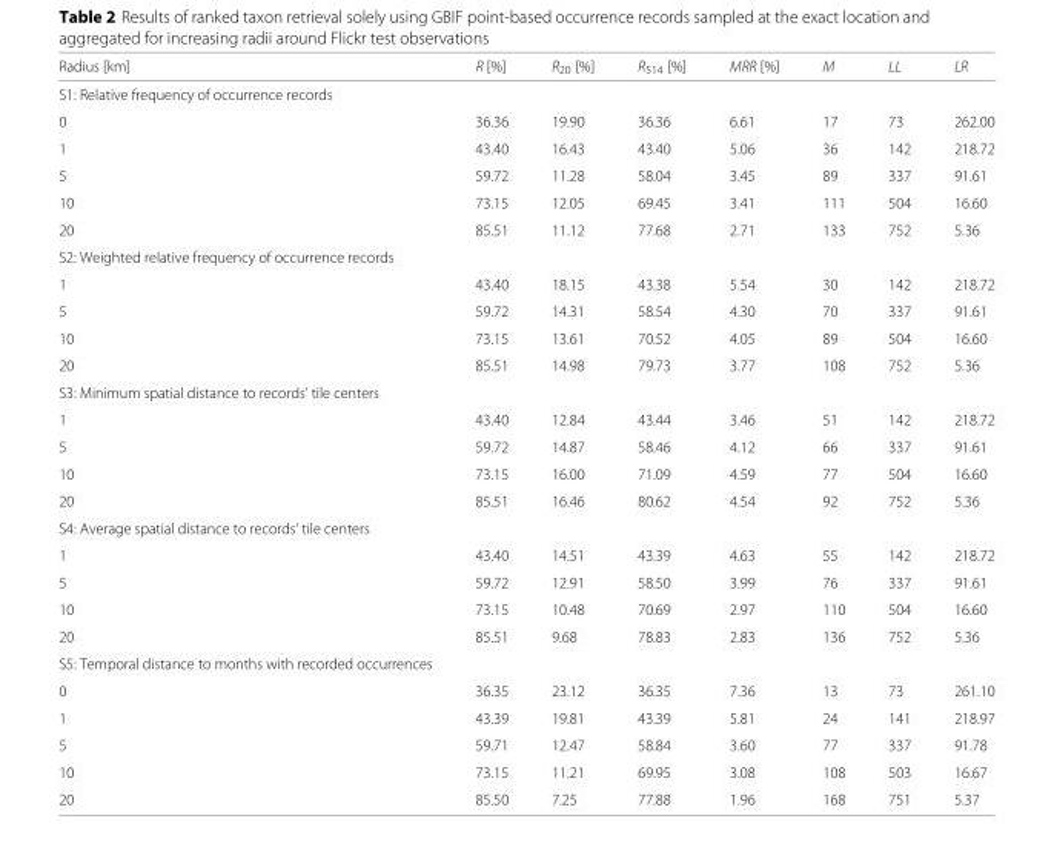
<table><thead><tr><td>Radius [km]</td><td>R [%]</td><td>R<sub>20</sub> [%]</td><td>R<sub>514</sub> [%]</td><td>MRR [%]</td><td>M</td><td>LL</td><td>LR</td></tr></thead><tbody><tr><td colspan="8">S1: Relative frequency of occurrence records</td></tr><tr><td>0</td><td>36.36</td><td>19.90</td><td>36.36</td><td>6.61</td><td>17</td><td>73</td><td>262.00</td></tr><tr><td>1</td><td>43.40</td><td>16.43</td><td>43.40</td><td>5.06</td><td>36</td><td>142</td><td>218.72</td></tr><tr><td>5</td><td>59.72</td><td>11.28</td><td>58.04</td><td>3.45</td><td>89</td><td>337</td><td>91.61</td></tr><tr><td>10</td><td>73.15</td><td>12.05</td><td>69.45</td><td>3.41</td><td>111</td><td>504</td><td>16.60</td></tr><tr><td>20</td><td>85.51</td><td>11.12</td><td>77.68</td><td>2.71</td><td>133</td><td>752</td><td>5.36</td></tr><tr><td colspan="8">S2: Weighted relative frequency of occurrence records</td></tr><tr><td>1</td><td>43.40</td><td>18.15</td><td>43.38</td><td>5.54</td><td>30</td><td>142</td><td>218.72</td></tr><tr><td>5</td><td>59.72</td><td>14.31</td><td>58.54</td><td>4.30</td><td>70</td><td>337</td><td>91.61</td></tr><tr><td>10</td><td>73.15</td><td>13.61</td><td>70.52</td><td>4.05</td><td>89</td><td>504</td><td>16.60</td></tr><tr><td>20</td><td>85.51</td><td>14.98</td><td>79.73</td><td>3.77</td><td>108</td><td>752</td><td>5.36</td></tr><tr><td colspan="8">S3: Minimum spatial distance to records’ tile centers</td></tr><tr><td>1</td><td>43.40</td><td>12.84</td><td>43.44</td><td>3.46</td><td>51</td><td>142</td><td>218.72</td></tr><tr><td>5</td><td>59.72</td><td>14.87</td><td>58.46</td><td>4.12</td><td>66</td><td>337</td><td>91.61</td></tr><tr><td>10</td><td>73.15</td><td>16.00</td><td>71.09</td><td>4.59</td><td>77</td><td>504</td><td>16.60</td></tr><tr><td>20</td><td>85.51</td><td>16.46</td><td>80.62</td><td>4.54</td><td>92</td><td>752</td><td>5.36</td></tr><tr><td colspan="8">S4: Average spatial distance to records’ tile centers</td></tr><tr><td>1</td><td>43.40</td><td>14.51</td><td>43.39</td><td>4.63</td><td>55</td><td>142</td><td>218.72</td></tr><tr><td>5</td><td>59.72</td><td>12.91</td><td>58.50</td><td>3.99</td><td>76</td><td>337</td><td>91.61</td></tr><tr><td>10</td><td>73.15</td><td>10.48</td><td>70.69</td><td>2.97</td><td>110</td><td>504</td><td>16.60</td></tr><tr><td>20</td><td>85.51</td><td>9.68</td><td>78.83</td><td>2.83</td><td>136</td><td>752</td><td>5.36</td></tr><tr><td colspan="8">S5: Temporal distance to months with recorded occurrences</td></tr><tr><td>0</td><td>36.35</td><td>23.12</td><td>36.35</td><td>7.36</td><td>13</td><td>73</td><td>261.10</td></tr><tr><td>1</td><td>43.39</td><td>19.81</td><td>43.39</td><td>5.81</td><td>24</td><td>141</td><td>218.97</td></tr><tr><td>5</td><td>59.71</td><td>12.47</td><td>58.84</td><td>3.60</td><td>77</td><td>337</td><td>91.78</td></tr><tr><td>10</td><td>73.15</td><td>11.21</td><td>69.95</td><td>3.08</td><td>108</td><td>503</td><td>16.67</td></tr><tr><td>20</td><td>85.50</td><td>7.25</td><td>77.88</td><td>1.96</td><td>168</td><td>751</td><td>5.37</td></tr></tbody></table>